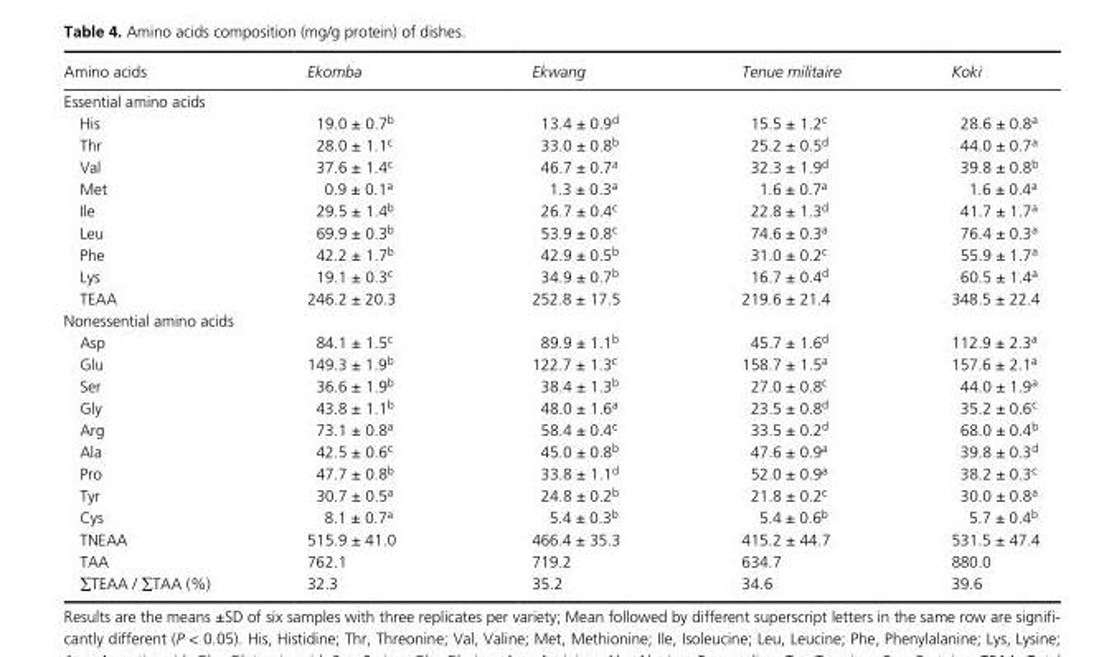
<table><thead><tr><td>Amino acids</td><td>Ekomba</td><td>Ekwang</td><td>Tenue militaire</td><td>Koki</td></tr></thead><tbody><tr><td colspan="5">Essential amino acids</td></tr><tr><td>His</td><td>19.0 ± 0.7<sup>b</sup></td><td>13.4 ± 0.9<sup>d</sup></td><td>15.5 ± 1.2<sup>c</sup></td><td>28.6 ± 0.8<sup>a</sup></td></tr><tr><td>Thr</td><td>28.0 ± 1.1<sup>c</sup></td><td>33.0 ± 0.8<sup>b</sup></td><td>25.2 ± 0.5<sup>d</sup></td><td>44.0 ± 0.7<sup>a</sup></td></tr><tr><td>Val</td><td>37.6 ± 1.4<sup>c</sup></td><td>46.7 ± 0.7<sup>a</sup></td><td>32.3 ± 1.9<sup>d</sup></td><td>39.8 ± 0.8<sup>b</sup></td></tr><tr><td>Met</td><td>0.9 ± 0.1<sup>a</sup></td><td>1.3 ± 0.3<sup>a</sup></td><td>1.6 ± 0.7<sup>a</sup></td><td>1.6 ± 0.4<sup>a</sup></td></tr><tr><td>Ile</td><td>29.5 ± 1.4<sup>b</sup></td><td>26.7 ± 0.4<sup>c</sup></td><td>22.8 ± 1.3<sup>d</sup></td><td>41.7 ± 1.7<sup>a</sup></td></tr><tr><td>Leu</td><td>69.9 ± 0.3<sup>b</sup></td><td>53.9 ± 0.8<sup>c</sup></td><td>74.6 ± 0.3<sup>a</sup></td><td>76.4 ± 0.3<sup>a</sup></td></tr><tr><td>Phe</td><td>42.2 ± 1.7<sup>b</sup></td><td>42.9 ± 0.5<sup>b</sup></td><td>31.0 ± 0.2<sup>c</sup></td><td>55.9 ± 1.7<sup>a</sup></td></tr><tr><td>Lys</td><td>19.1 ± 0.3<sup>c</sup></td><td>34.9 ± 0.7<sup>b</sup></td><td>16.7 ± 0.4<sup>d</sup></td><td>60.5 ± 1.4<sup>a</sup></td></tr><tr><td>TEAA</td><td>246.2 ± 20.3</td><td>252.8 ± 17.5</td><td>219.6 ± 21.4</td><td>348.5 ± 22.4</td></tr><tr><td colspan="5">Nonessential amino acids</td></tr><tr><td>Asp</td><td>84.1 ± 1.5<sup>c</sup></td><td>89.9 ± 1.1<sup>b</sup></td><td>45.7 ± 1.6<sup>d</sup></td><td>112.9 ± 2.3<sup>a</sup></td></tr><tr><td>Glu</td><td>149.3 ± 1.9<sup>b</sup></td><td>122.7 ± 1.3<sup>c</sup></td><td>158.7 ± 1.5<sup>a</sup></td><td>157.6 ± 2.1<sup>a</sup></td></tr><tr><td>Ser</td><td>36.6 ± 1.9<sup>b</sup></td><td>38.4 ± 1.3<sup>b</sup></td><td>27.0 ± 0.8<sup>c</sup></td><td>44.0 ± 1.9<sup>a</sup></td></tr><tr><td>Gly</td><td>43.8 ± 1.1<sup>b</sup></td><td>48.0 ± 1.6<sup>a</sup></td><td>23.5 ± 0.8<sup>d</sup></td><td>35.2 ± 0.6<sup>c</sup></td></tr><tr><td>Arg</td><td>73.1 ± 0.8<sup>a</sup></td><td>58.4 ± 0.4<sup>c</sup></td><td>33.5 ± 0.2<sup>d</sup></td><td>68.0 ± 0.4<sup>b</sup></td></tr><tr><td>Ala</td><td>42.5 ± 0.6<sup>c</sup></td><td>45.0 ± 0.8<sup>b</sup></td><td>47.6 ± 0.9<sup>a</sup></td><td>39.8 ± 0.3<sup>d</sup></td></tr><tr><td>Pro</td><td>47.7 ± 0.8<sup>b</sup></td><td>33.8 ± 1.1<sup>d</sup></td><td>52.0 ± 0.9<sup>a</sup></td><td>38.2 ± 0.3<sup>c</sup></td></tr><tr><td>Tyr</td><td>30.7 ± 0.5<sup>a</sup></td><td>24.8 ± 0.2<sup>b</sup></td><td>21.8 ± 0.2<sup>c</sup></td><td>30.0 ± 0.8<sup>a</sup></td></tr><tr><td>Cys</td><td>8.1 ± 0.7<sup>a</sup></td><td>5.4 ± 0.3<sup>b</sup></td><td>5.4 ± 0.6<sup>b</sup></td><td>5.7 ± 0.4<sup>b</sup></td></tr><tr><td>TNEAA</td><td>515.9 ± 41.0</td><td>466.4 ± 35.3</td><td>415.2 ± 44.7</td><td>531.5 ± 47.4</td></tr><tr><td>TAA</td><td>762.1</td><td>719.2</td><td>634.7</td><td>880.0</td></tr><tr><td>∑TEAA / ∑TAA (%)</td><td>32.3</td><td>35.2</td><td>34.6</td><td>39.6</td></tr></tbody></table>